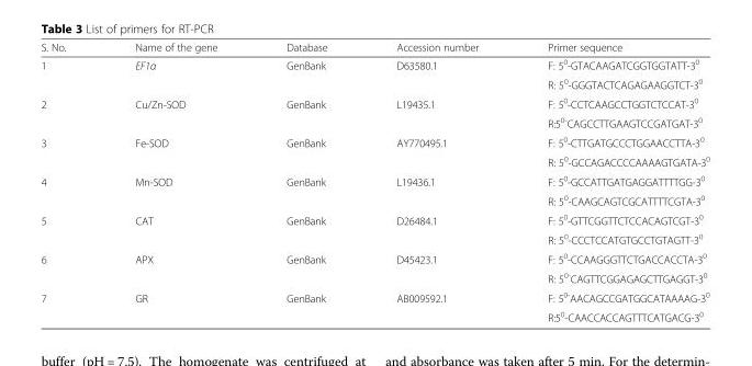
<table><thead><tr><td>S. No.</td><td>Name of the gene</td><td>Database</td><td>Accession number</td><td>Primer sequence</td></tr></thead><tbody><tr><td rowspan="2">1</td><td rowspan="2">EF1α</td><td rowspan="2">GenBank</td><td rowspan="2">D63580.1</td><td>F: 5<sup>0</sup>-GTACAAGATCGGTGGTATT-3<sup>0</sup></td></tr><tr><td>R: 5<sup>0</sup>-GGGTACTCAGAGAAGGTCT-3<sup>0</sup></td></tr><tr><td rowspan="2">2</td><td rowspan="2">Cu/Zn-SOD</td><td rowspan="2">GenBank</td><td rowspan="2">L19435.1</td><td>F: 5<sup>0</sup>-CCTCAAGCCTGGTCTCCAT-3<sup>0</sup></td></tr><tr><td>R:5<sup>0-</sup>CAGCCTTGAAGTCCGATGAT-3<sup>0</sup></td></tr><tr><td rowspan="2">3</td><td rowspan="2">Fe-SOD</td><td rowspan="2">GenBank</td><td rowspan="2">AY770495.1</td><td>F: 5<sup>0</sup>-CTTGATGCCCTGGAACCTTA-3<sup>0</sup></td></tr><tr><td>R: 5<sup>0</sup>-GCCAGACCCCAAAAGTGATA-3<sup>0</sup></td></tr><tr><td rowspan="2">4</td><td rowspan="2">Mn-SOD</td><td rowspan="2">GenBank</td><td rowspan="2">L19436.1</td><td>F: 5<sup>0</sup>-GCCATTGATGAGGATTTTGG-3<sup>0</sup></td></tr><tr><td>R: 5<sup>0</sup>-CAAGCAGTCGCATTTTCGTA-3<sup>0</sup></td></tr><tr><td rowspan="2">5</td><td rowspan="2">CAT</td><td rowspan="2">GenBank</td><td rowspan="2">D26484.1</td><td>F: 5<sup>0</sup>-GTTCGGTTCTCCACAGTCGT-3<sup>0</sup></td></tr><tr><td>R: 5<sup>0</sup>-CCCTCCATGTGCCTGTAGTT-3<sup>0</sup></td></tr><tr><td rowspan="2">6</td><td rowspan="2">APX</td><td rowspan="2">GenBank</td><td rowspan="2">D45423.1</td><td>F: 5<sup>0</sup>-CCAAGGGTTCTGACCACCTA-3<sup>0</sup></td></tr><tr><td>R: 5<sup>0-</sup>CAGTTCGGAGAGCTTGAGGT-3<sup>0</sup></td></tr><tr><td rowspan="2">7</td><td rowspan="2">GR</td><td rowspan="2">GenBank</td><td rowspan="2">AB009592.1</td><td>F: 5<sup>0-</sup>AACAGCCGATGGCATAAAAG-3<sup>0</sup></td></tr><tr><td>R:5<sup>0</sup>-CAACCACCAGTTTCATGACG-3<sup>0</sup></td></tr></tbody></table>